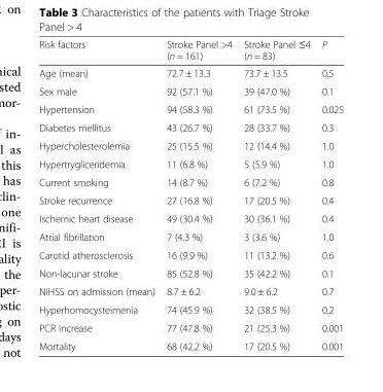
<table><thead><tr><td>Risk factors</td><td>Stroke Panel &gt;4 (n = 161)</td><td>Stroke Panel ≤4 (n = 83)</td><td>P</td></tr></thead><tbody><tr><td>Age (mean)</td><td>72.7 ± 13.3</td><td>73.7 ± 13.5</td><td>0.5</td></tr><tr><td>Sex male</td><td>92 (57.1 %)</td><td>39 (47.0 %)</td><td>0.1</td></tr><tr><td>Hypertension</td><td>94 (58.3 %)</td><td>61 (73.5 %)</td><td>0.025</td></tr><tr><td>Diabetes mellitus</td><td>43 (26.7 %)</td><td>28 (33.7 %)</td><td>0.3</td></tr><tr><td>Hypercholesterolemia</td><td>25 (15.5 %)</td><td>12 (14.4 %)</td><td>1.0</td></tr><tr><td>Hypertrygliceridemia</td><td>11 (6.8 %)</td><td>5 (5.9 %)</td><td>1.0</td></tr><tr><td>Current smoking</td><td>14 (8.7 %)</td><td>6 (7.2 %)</td><td>0.8</td></tr><tr><td>Stroke recurrence</td><td>27 (16.8 %)</td><td>17 (20.5 %)</td><td>0.4</td></tr><tr><td>Ischemic heart disease</td><td>49 (30.4 %)</td><td>30 (36.1 %)</td><td>0.4</td></tr><tr><td>Atrial fibrillation</td><td>7 (4.3 %)</td><td>3 (3.6 %)</td><td>1.0</td></tr><tr><td>Carotid atherosclerosis</td><td>16 (9.9 %)</td><td>11 (13.2 %)</td><td>0.6</td></tr><tr><td>Non-lacunar stroke</td><td>85 (52.8 %)</td><td>35 (42.2 %)</td><td>0.1</td></tr><tr><td>NIHSS on admission (mean)</td><td>8.7 ± 6.2</td><td>9.0 ± 6.2</td><td>0.7</td></tr><tr><td>Hyperhomocysteimenia</td><td>74 (45.9 %)</td><td>32 (38.5 %)</td><td>0.2</td></tr><tr><td>PCR increase</td><td>77 (47.8 %)</td><td>21 (25.3 %)</td><td>0.001</td></tr><tr><td>Mortality</td><td>68 (42.2 %)</td><td>17 (20.5 %)</td><td>0.001</td></tr></tbody></table>